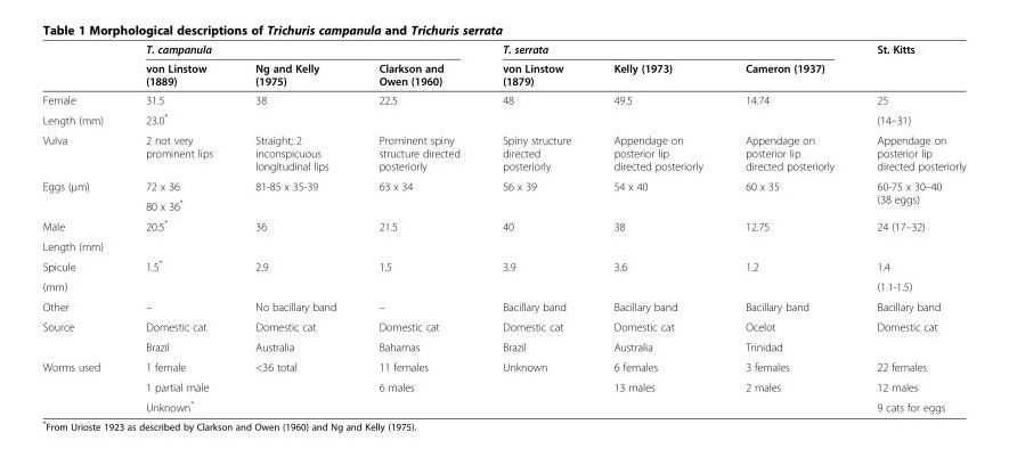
<table><thead><tr><td rowspan="2"></td><td colspan="3">T. campanula</td><td colspan="3">T. serrata</td><td rowspan="2">St. Kitts</td></tr><tr><td>von Linstow (1889)</td><td>Ng and Kelly (1975)</td><td>Clarkson and Owen (1960)</td><td>von Linstow (1879)</td><td>Kelly (1973)</td><td>Cameron (1937)</td></tr></thead><tbody><tr><td>Female</td><td>31.5</td><td rowspan="2">38</td><td rowspan="2">22.5</td><td rowspan="2">48</td><td rowspan="2">49.5</td><td rowspan="2">14.74</td><td>25</td></tr><tr><td>Length (mm)</td><td>23.0*</td><td>(14–31)</td></tr><tr><td>Vulva</td><td>2 not very prominent lips</td><td>Straight; 2 inconspicuous longitudinal lips</td><td>Prominent spiny structure directed posteriorly</td><td>Spiny structure directed posteriorly</td><td>Appendage on posterior lip directed posteriorly</td><td>Appendage on posterior lip directed posteriorly</td><td>Appendage on posterior lip directed posteriorly</td></tr><tr><td rowspan="2">Eggs (μm)</td><td>72 x 36</td><td rowspan="2">81-85 x 35-39</td><td rowspan="2">63 x 34</td><td rowspan="2">56 x 39</td><td rowspan="2">54 x 40</td><td rowspan="2">60 x 35</td><td rowspan="2">60-75 x 30–40 (38 eggs)</td></tr><tr><td>80 x 36*</td></tr><tr><td>Male</td><td rowspan="2">20.5*</td><td rowspan="2">36</td><td rowspan="2">21.5</td><td rowspan="2">40</td><td rowspan="2">38</td><td rowspan="2">12.75</td><td rowspan="2">24 (17–32)</td></tr><tr><td>Length (mm)</td></tr><tr><td>Spicule</td><td rowspan="2">1.5*</td><td rowspan="2">2.9</td><td rowspan="2">1.5</td><td rowspan="2">3.9</td><td rowspan="2">3.6</td><td rowspan="2">1.2</td><td>1.4</td></tr><tr><td>(mm)</td><td>(1.1-1.5)</td></tr><tr><td>Other</td><td>–</td><td>No bacillary band</td><td>–</td><td>Bacillary band</td><td>Bacillary band</td><td>Bacillary band</td><td>Bacillary band</td></tr><tr><td rowspan="2">Source</td><td>Domestic cat</td><td>Domestic cat</td><td>Domestic cat</td><td>Domestic cat</td><td>Domestic cat</td><td>Ocelot</td><td rowspan="2">Domestic cat</td></tr><tr><td>Brazil</td><td>Australia</td><td>Bahamas</td><td>Brazil</td><td>Australia</td><td>Trinidad</td></tr><tr><td rowspan="3">Worms used</td><td>1 female</td><td rowspan="3">&lt;36 total</td><td>11 females</td><td rowspan="3">Unknown</td><td>6 females</td><td>3 females</td><td>22 females</td></tr><tr><td>1 partial male</td><td rowspan="2">6 males</td><td rowspan="2">13 males</td><td rowspan="2">2 males</td><td>12 males</td></tr><tr><td>Unknown*</td><td>9 cats for eggs</td></tr></tbody></table>